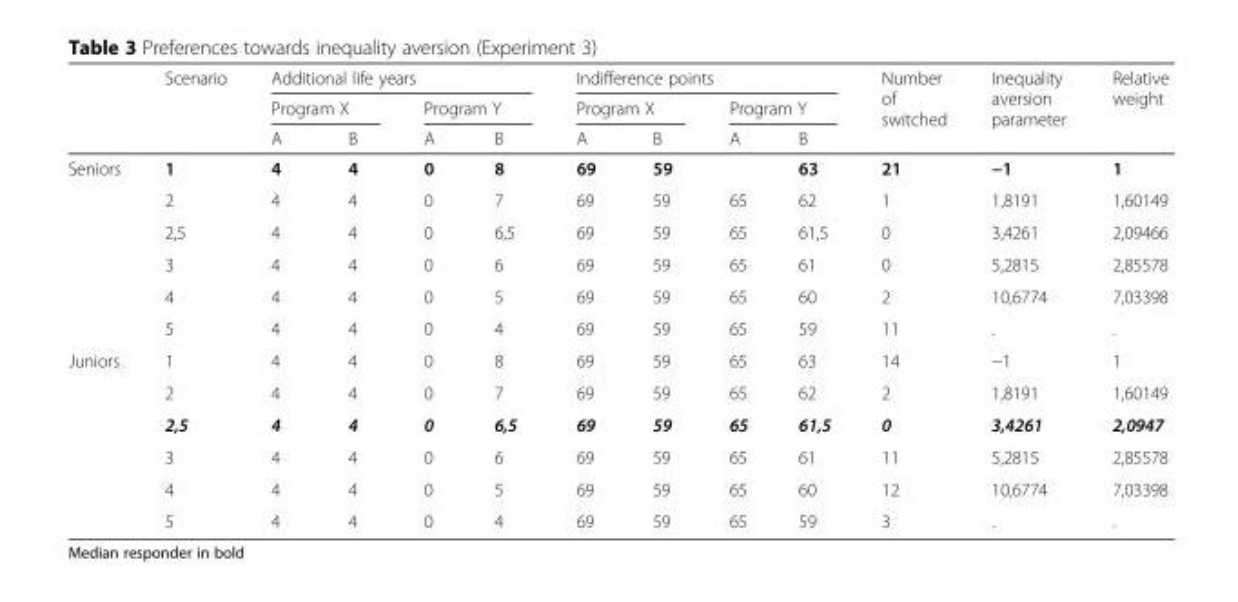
<table><thead><tr><td rowspan="3"></td><td rowspan="3">Scenario</td><td colspan="4">Additional life years</td><td colspan="4">Indifference points</td><td rowspan="3">Number of switched</td><td rowspan="3">Inequality aversion parameter</td><td rowspan="3">Relative weight</td></tr><tr><td colspan="2">Program X</td><td colspan="2">Program Y</td><td colspan="2">Program X</td><td colspan="2">Program Y</td></tr><tr><td>A</td><td>B</td><td>A</td><td>B</td><td>A</td><td>B</td><td>A</td><td>B</td></tr></thead><tbody><tr><td rowspan="6">Seniors</td><td>1</td><td>4</td><td>4</td><td>0</td><td>8</td><td>69</td><td>59</td><td></td><td>63</td><td>21</td><td>−1</td><td>1</td></tr><tr><td>2</td><td>4</td><td>4</td><td>0</td><td>7</td><td>69</td><td>59</td><td>65</td><td>62</td><td>1</td><td>1,8191</td><td>1,60149</td></tr><tr><td>2,5</td><td>4</td><td>4</td><td>0</td><td>6,5</td><td>69</td><td>59</td><td>65</td><td>61,5</td><td>0</td><td>3,4261</td><td>2,09466</td></tr><tr><td>3</td><td>4</td><td>4</td><td>0</td><td>6</td><td>69</td><td>59</td><td>65</td><td>61</td><td>0</td><td>5,2815</td><td>2,85578</td></tr><tr><td>4</td><td>4</td><td>4</td><td>0</td><td>5</td><td>69</td><td>59</td><td>65</td><td>60</td><td>2</td><td>10,6774</td><td>7,03398</td></tr><tr><td>5</td><td>4</td><td>4</td><td>0</td><td>4</td><td>69</td><td>59</td><td>65</td><td>59</td><td>11</td><td>.</td><td>.</td></tr><tr><td rowspan="6">Juniors</td><td>1</td><td>4</td><td>4</td><td>0</td><td>8</td><td>69</td><td>59</td><td>65</td><td>63</td><td>14</td><td>−1</td><td>1</td></tr><tr><td>2</td><td>4</td><td>4</td><td>0</td><td>7</td><td>69</td><td>59</td><td>65</td><td>62</td><td>2</td><td>1,8191</td><td>1,60149</td></tr><tr><td>2,5</td><td>4</td><td>4</td><td>0</td><td>6,5</td><td>69</td><td>59</td><td>65</td><td>61,5</td><td>0</td><td>3,4261</td><td>2,0947</td></tr><tr><td>3</td><td>4</td><td>4</td><td>0</td><td>6</td><td>69</td><td>59</td><td>65</td><td>61</td><td>11</td><td>5,2815</td><td>2,85578</td></tr><tr><td>4</td><td>4</td><td>4</td><td>0</td><td>5</td><td>69</td><td>59</td><td>65</td><td>60</td><td>12</td><td>10,6774</td><td>7,03398</td></tr><tr><td>5</td><td>4</td><td>4</td><td>0</td><td>4</td><td>69</td><td>59</td><td>65</td><td>59</td><td>3</td><td>.</td><td>.</td></tr></tbody></table>